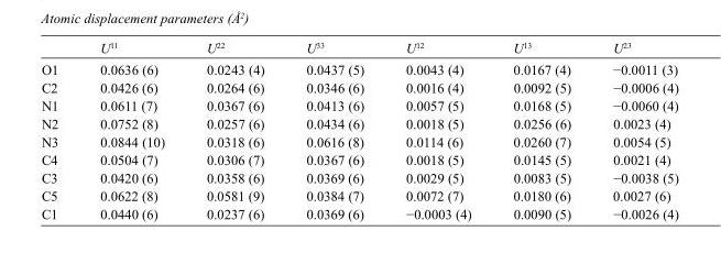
<table><thead><tr><td></td><td>U<sup>11</sup></td><td>U<sup>22</sup></td><td>U<sup>33</sup></td><td>U<sup>12</sup></td><td>U<sup>13</sup></td><td>U<sup>23</sup></td></tr></thead><tbody><tr><td>O1</td><td>0.0636 (6)</td><td>0.0243 (4)</td><td>0.0437 (5)</td><td>0.0043 (4)</td><td>0.0167 (4)</td><td>−0.0011 (3)</td></tr><tr><td>C2</td><td>0.0426 (6)</td><td>0.0264 (6)</td><td>0.0346 (6)</td><td>0.0016 (4)</td><td>0.0092 (5)</td><td>−0.0006 (4)</td></tr><tr><td>N1</td><td>0.0611 (7)</td><td>0.0367 (6)</td><td>0.0413 (6)</td><td>0.0057 (5)</td><td>0.0168 (5)</td><td>−0.0060 (4)</td></tr><tr><td>N2</td><td>0.0752 (8)</td><td>0.0257 (6)</td><td>0.0434 (6)</td><td>0.0018 (5)</td><td>0.0256 (6)</td><td>0.0023 (4)</td></tr><tr><td>N3</td><td>0.0844 (10)</td><td>0.0318 (6)</td><td>0.0616 (8)</td><td>0.0114 (6)</td><td>0.0260 (7)</td><td>0.0054 (5)</td></tr><tr><td>C4</td><td>0.0504 (7)</td><td>0.0306 (7)</td><td>0.0367 (6)</td><td>0.0018 (5)</td><td>0.0145 (5)</td><td>0.0021 (4)</td></tr><tr><td>C3</td><td>0.0420 (6)</td><td>0.0358 (6)</td><td>0.0369 (6)</td><td>0.0029 (5)</td><td>0.0083 (5)</td><td>−0.0038 (5)</td></tr><tr><td>C5</td><td>0.0622 (8)</td><td>0.0581 (9)</td><td>0.0384 (7)</td><td>0.0072 (7)</td><td>0.0180 (6)</td><td>0.0027 (6)</td></tr><tr><td>C1</td><td>0.0440 (6)</td><td>0.0237 (6)</td><td>0.0369 (6)</td><td>−0.0003 (4)</td><td>0.0090 (5)</td><td>−0.0026 (4)</td></tr></tbody></table>